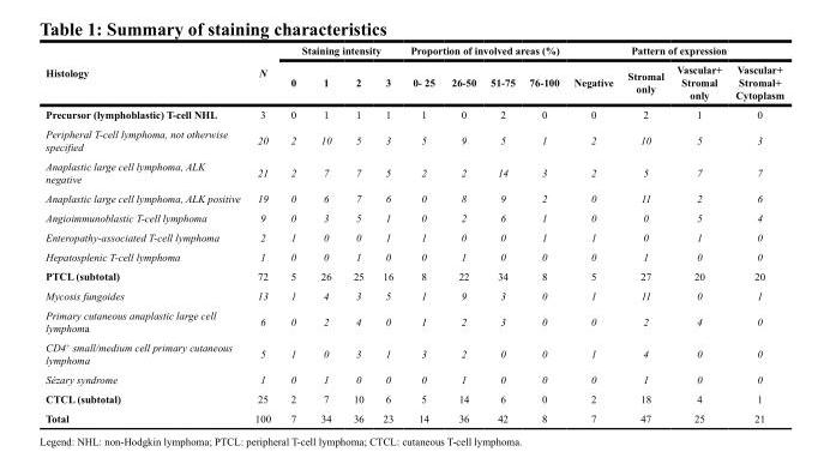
<table><thead><tr><td rowspan="2">Histology</td><td rowspan="2">N</td><td colspan="4">Staining intensity</td><td colspan="4">Proportion of involved areas (%)</td><td colspan="4">Pattern of expression</td></tr><tr><td>0</td><td>1</td><td>2</td><td>3</td><td>0- 25</td><td>26-50</td><td>51-75</td><td>76-100</td><td>Negative</td><td>Stromal only</td><td>Vascular+ Stromal only</td><td>Vascular+ Stromal+ Cytoplasm</td></tr></thead><tbody><tr><td>Precursor (lymphoblastic) T-cell NHL</td><td>3</td><td>0</td><td>1</td><td>1</td><td>1</td><td>1</td><td>0</td><td>2</td><td>0</td><td>0</td><td>2</td><td>1</td><td>0</td></tr><tr><td>Peripheral T-cell lymphoma, not otherwise specified</td><td>20</td><td>2</td><td>10</td><td>5</td><td>3</td><td>5</td><td>9</td><td>5</td><td>1</td><td>2</td><td>10</td><td>5</td><td>3</td></tr><tr><td>Anaplastic large cell lymphoma, ALK negative</td><td>21</td><td>2</td><td>7</td><td>7</td><td>5</td><td>2</td><td>2</td><td>14</td><td>3</td><td>2</td><td>5</td><td>7</td><td>7</td></tr><tr><td>Anaplastic large cell lymphoma, ALK positive</td><td>19</td><td>0</td><td>6</td><td>7</td><td>6</td><td>0</td><td>8</td><td>9</td><td>2</td><td>0</td><td>11</td><td>2</td><td>6</td></tr><tr><td>Angioimmunoblastic T-cell lymphoma</td><td>9</td><td>0</td><td>3</td><td>5</td><td>1</td><td>0</td><td>2</td><td>6</td><td>1</td><td>0</td><td>0</td><td>5</td><td>4</td></tr><tr><td>Enteropathy-associated T-cell lymphoma</td><td>2</td><td>1</td><td>0</td><td>0</td><td>1</td><td>1</td><td>0</td><td>0</td><td>1</td><td>1</td><td>0</td><td>1</td><td>0</td></tr><tr><td>Hepatosplenic T-cell lymphoma</td><td>1</td><td>0</td><td>0</td><td>1</td><td>0</td><td>0</td><td>1</td><td>0</td><td>0</td><td>0</td><td>1</td><td>0</td><td>0</td></tr><tr><td>PTCL (subtotal)</td><td>72</td><td>5</td><td>26</td><td>25</td><td>16</td><td>8</td><td>22</td><td>34</td><td>8</td><td>5</td><td>27</td><td>20</td><td>20</td></tr><tr><td>Mycosis fungoides</td><td>13</td><td>1</td><td>4</td><td>3</td><td>5</td><td>1</td><td>9</td><td>3</td><td>0</td><td>1</td><td>11</td><td>0</td><td>1</td></tr><tr><td>Primary cutaneous anaplastic large cell lymphoma</td><td>6</td><td>0</td><td>2</td><td>4</td><td>0</td><td>1</td><td>2</td><td>3</td><td>0</td><td>0</td><td>2</td><td>4</td><td>0</td></tr><tr><td>CD4<sup>+</sup> small/medium cell primary cutaneous lymphoma</td><td>5</td><td>1</td><td>0</td><td>3</td><td>1</td><td>3</td><td>2</td><td>0</td><td>0</td><td>1</td><td>4</td><td>0</td><td>0</td></tr><tr><td>Sézary syndrome</td><td>1</td><td>0</td><td>1</td><td>0</td><td>0</td><td>0</td><td>1</td><td>0</td><td>0</td><td>0</td><td>1</td><td>0</td><td>0</td></tr><tr><td>CTCL (subtotal)</td><td>25</td><td>2</td><td>7</td><td>10</td><td>6</td><td>5</td><td>14</td><td>6</td><td>0</td><td>2</td><td>18</td><td>4</td><td>1</td></tr><tr><td>Total</td><td>100</td><td>7</td><td>34</td><td>36</td><td>23</td><td>14</td><td>36</td><td>42</td><td>8</td><td>7</td><td>47</td><td>25</td><td>21</td></tr></tbody></table>